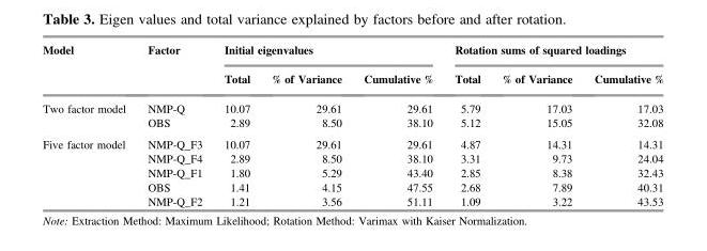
<table><thead><tr><td rowspan="2">Model</td><td rowspan="2">Factor</td><td colspan="3">Initial eigenvalues</td><td colspan="3">Rotation sums of squared loadings</td></tr><tr><td>Total</td><td>% of Variance</td><td>Cumulative %</td><td>Total</td><td>% of Variance</td><td>Cumulative %</td></tr></thead><tbody><tr><td rowspan="2">Two factor model</td><td>NMP-Q</td><td>10.07</td><td>29.61</td><td>29.61</td><td>5.79</td><td>17.03</td><td>17.03</td></tr><tr><td>OBS</td><td>2.89</td><td>8.50</td><td>38.10</td><td>5.12</td><td>15.05</td><td>32.08</td></tr><tr><td rowspan="5">Five factor model</td><td>NMP-Q_F3</td><td>10.07</td><td>29.61</td><td>29.61</td><td>4.87</td><td>14.31</td><td>14.31</td></tr><tr><td>NMP-Q_F4</td><td>2.89</td><td>8.50</td><td>38.10</td><td>3.31</td><td>9.73</td><td>24.04</td></tr><tr><td>NMP-Q_F1</td><td>1.80</td><td>5.29</td><td>43.40</td><td>2.85</td><td>8.38</td><td>32.43</td></tr><tr><td>OBS</td><td>1.41</td><td>4.15</td><td>47.55</td><td>2.68</td><td>7.89</td><td>40.31</td></tr><tr><td>NMP-Q_F2</td><td>1.21</td><td>3.56</td><td>51.11</td><td>1.09</td><td>3.22</td><td>43.53</td></tr></tbody></table>